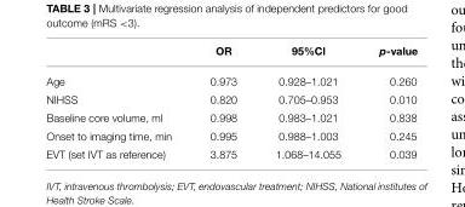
<table><thead><tr><td></td><td>OR</td><td>95%Cl</td><td>p-value</td></tr></thead><tbody><tr><td>Age</td><td>0.973</td><td>0.928–1.021</td><td>0.260</td></tr><tr><td>NIHSS</td><td>0.820</td><td>0.705–0.953</td><td>0.010</td></tr><tr><td>Baseline core volume, ml</td><td>0.998</td><td>0.983–1.021</td><td>0.838</td></tr><tr><td>Onset to imaging time, min</td><td>0.995</td><td>0.988–1.003</td><td>0.245</td></tr><tr><td>EVT (set IVT as reference)</td><td>3.875</td><td>1.068–14.055</td><td>0.039</td></tr></tbody></table>